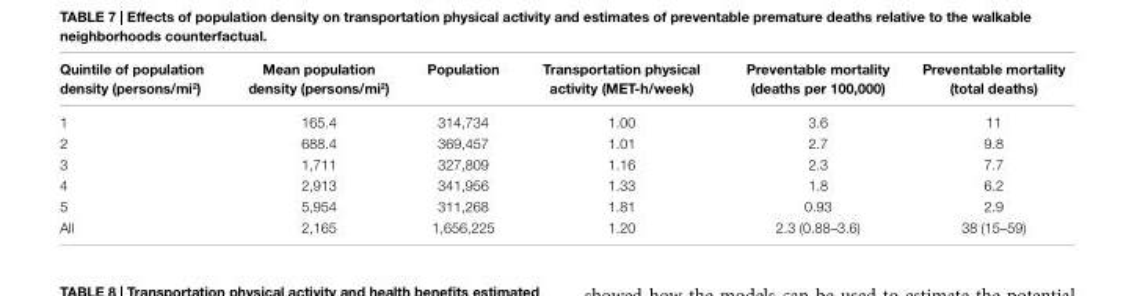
<table><thead><tr><td>Quintile of population density (persons/mi<sup>2</sup>)</td><td>Mean population density (persons/mi<sup>2</sup>)</td><td>Population</td><td>Transportation physical activity (MeT-h/week)</td><td>Preventable mortality (deaths per 100,000)</td><td>Preventable mortality (total deaths)</td></tr></thead><tbody><tr><td>1</td><td>165.4</td><td>314,734</td><td>1.00</td><td>3.6</td><td>11</td></tr><tr><td>2</td><td>688.4</td><td>369,457</td><td>1.01</td><td>2.7</td><td>9.8</td></tr><tr><td>3</td><td>1,711</td><td>327,809</td><td>1.16</td><td>2.3</td><td>7.7</td></tr><tr><td>4</td><td>2,913</td><td>341,956</td><td>1.33</td><td>1.8</td><td>6.2</td></tr><tr><td>5</td><td>5,954</td><td>311,268</td><td>1.81</td><td>0.93</td><td>2.9</td></tr><tr><td>All</td><td>2,165</td><td>1,656,225</td><td>1.20</td><td>2.3 (0.88–3.6)</td><td>38 (15–59)</td></tr></tbody></table>